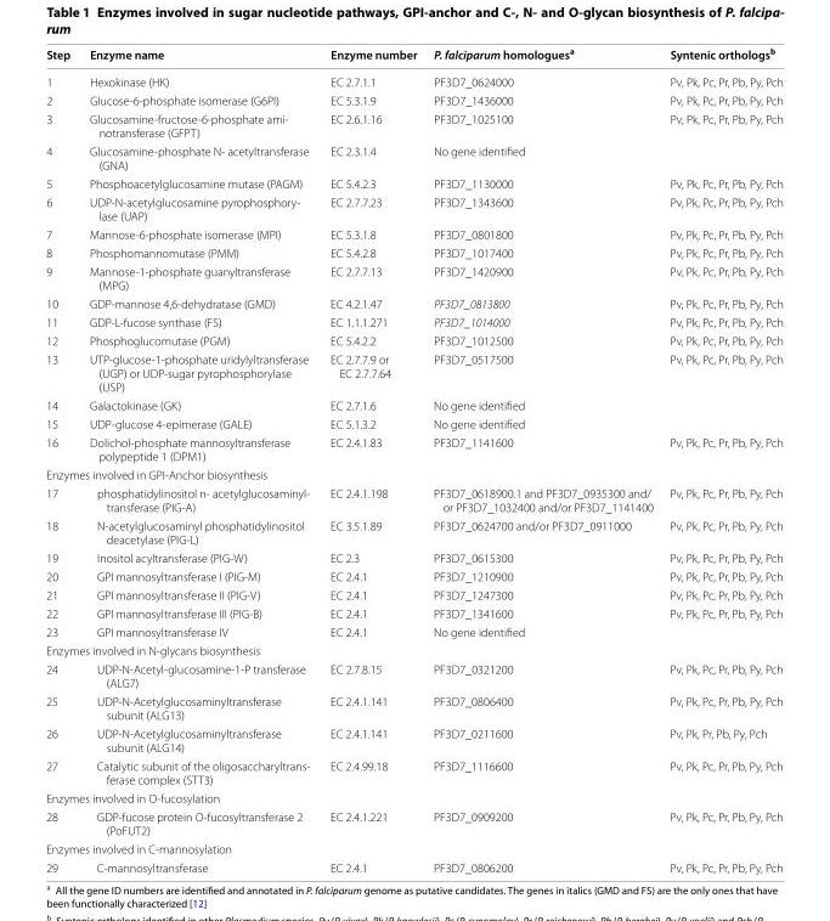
<table><thead><tr><td>Step</td><td>Enzyme name</td><td>Enzyme number</td><td>P. falciparum homologues<sup>a</sup></td><td>Syntenic orthologs<sup>b</sup></td></tr></thead><tbody><tr><td>1</td><td>Hexokinase (HK)</td><td>EC 2.7.1.1</td><td>PF3D7_0624000</td><td>Pv, Pk, Pc, Pr, Pb, Py, Pch</td></tr><tr><td>2</td><td>Glucose-6-phosphate isomerase (G6PI)</td><td>EC 5.3.1.9</td><td>PF3D7_1436000</td><td>Pv, Pk, Pc, Pr, Pb, Py, Pch</td></tr><tr><td>3</td><td>Glucosamine-fructose-6-phosphate ami- notransferase (GFPT)</td><td>EC 2.6.1.16</td><td>PF3D7_1025100</td><td>Pv, Pk, Pc, Pr, Pb, Py, Pch</td></tr><tr><td>4</td><td>Glucosamine-phosphate N- acetyltransferase (GNA)</td><td>EC 2.3.1.4</td><td>No gene identified</td><td></td></tr><tr><td>5</td><td>Phosphoacetylglucosamine mutase (PAGM)</td><td>EC 5.4.2.3</td><td>PF3D7_1130000</td><td>Pv, Pk, Pc, Pr, Pb, Py, Pch</td></tr><tr><td>6</td><td>UDP-N-acetylglucosamine pyrophosphory- lase (UAP)</td><td>EC 2.7.7.23</td><td>PF3D7_1343600</td><td>Pv, Pk, Pc, Pr, Pb, Py, Pch</td></tr><tr><td>7</td><td>Mannose-6-phosphate isomerase (MPI)</td><td>EC 5.3.1.8</td><td>PF3D7_0801800</td><td>Pv, Pk, Pc, Pr, Pb, Py, Pch</td></tr><tr><td>8</td><td>Phosphomannomutase (PMM)</td><td>EC 5.4.2.8</td><td>PF3D7_1017400</td><td>Pv, Pk, Pc, Pr, Pb, Py, Pch</td></tr><tr><td>9</td><td>Mannose-1-phosphate guanyltransferase (MPG)</td><td>EC 2.7.7.13</td><td>PF3D7_1420900</td><td>Pv, Pk, Pc, Pr, Pb, Py, Pch</td></tr><tr><td>10</td><td>GDP-mannose 4,6-dehydratase (GMD)</td><td>EC 4.2.1.47</td><td>PF3D7_0813800</td><td>Pv, Pk, Pc, Pr, Pb, Py, Pch</td></tr><tr><td>11</td><td>GDP-L-fucose synthase (FS)</td><td>EC 1.1.1.271</td><td>PF3D7_1014000</td><td>Pv, Pk, Pc, Pr, Pb, Py, Pch</td></tr><tr><td>12</td><td>Phosphoglucomutase (PGM)</td><td>EC 5.4.2.2</td><td>PF3D7_1012500</td><td>Pv, Pk, Pc, Pr, Pb, Py, Pch</td></tr><tr><td>13</td><td>UTP-glucose-1-phosphate uridylyltransferase (UGP) or UDP-sugar pyrophosphorylase (USP)</td><td>EC 2.7.7.9 or EC 2.7.7.64</td><td>PF3D7_0517500</td><td>Pv, Pk, Pc, Pr, Pb, Py, Pch</td></tr><tr><td>14</td><td>Galactokinase (GK)</td><td>EC 2.7.1.6</td><td>No gene identified</td><td></td></tr><tr><td>15</td><td>UDP-glucose 4-epimerase (GALE)</td><td>EC 5.1.3.2</td><td>No gene identified</td><td></td></tr><tr><td>16</td><td>Dolichol-phosphate mannosyltransferase polypeptide 1 (DPM1)</td><td>EC 2.4.1.83</td><td>PF3D7_1141600</td><td>Pv, Pk, Pc, Pr, Pb, Py, Pch</td></tr><tr><td colspan="5">Enzymes involved in GPI-Anchor biosynthesis</td></tr><tr><td>17</td><td>phosphatidylinositol n- acetylglucosaminyl- transferase (PIG-A)</td><td>EC 2.4.1.198</td><td>PF3D7_0618900.1 and PF3D7_0935300 and/ or PF3D7_1032400 and/or PF3D7_1141400</td><td>Pv, Pk, Pc, Pr, Pb, Py, Pch</td></tr><tr><td>18</td><td>N-acetylglucosaminyl phosphatidylinositol deacetylase (PIG-L)</td><td>EC 3.5.1.89</td><td>PF3D7_0624700 and/or PF3D7_0911000</td><td>Pv, Pk, Pc, Pr, Pb, Py, Pch</td></tr><tr><td>19</td><td>Inositol acyltransferase (PIG-W)</td><td>EC 2.3</td><td>PF3D7_0615300</td><td>Pv, Pk, Pc, Pr, Pb, Py, Pch</td></tr><tr><td>20</td><td>GPI mannosyltransferase I (PIG-M)</td><td>EC 2.4.1</td><td>PF3D7_1210900</td><td>Pv, Pk, Pc, Pr, Pb, Py, Pch</td></tr><tr><td>21</td><td>GPI mannosyltransferase II (PIG-V)</td><td>EC 2.4.1</td><td>PF3D7_1247300</td><td>Pv, Pk, Pc, Pr, Pb, Py, Pch</td></tr><tr><td>22</td><td>GPI mannosyltransferase III (PIG-B)</td><td>EC 2.4.1</td><td>PF3D7_1341600</td><td>Pv, Pk, Pc, Pr, Pb, Py, Pch</td></tr><tr><td>23</td><td>GPI mannosyltransferase IV</td><td>EC 2.4.1</td><td>No gene identified</td><td></td></tr><tr><td colspan="5">Enzymes involved in N-glycans biosynthesis</td></tr><tr><td>24</td><td>UDP-N-Acetyl-glucosamine-1-P transferase (ALG7)</td><td>EC 2.7.8.15</td><td>PF3D7_0321200</td><td>Pv, Pk, Pc, Pr, Pb, Py, Pch</td></tr><tr><td>25</td><td>UDP-N-Acetylglucosaminyltransferase subunit (ALG13)</td><td>EC 2.4.1.141</td><td>PF3D7_0806400</td><td>Pv, Pk, Pc, Pr, Pb, Py, Pch</td></tr><tr><td>26</td><td>UDP-N-Acetylglucosaminyltransferase subunit (ALG14)</td><td>EC 2.4.1.141</td><td>PF3D7_0211600</td><td>Pv, Pk, Pr, Pb, Py, Pch</td></tr><tr><td>27</td><td>Catalytic subunit of the oligosaccharyltrans- ferase complex (STT3)</td><td>EC 2.4.99.18</td><td>PF3D7_1116600</td><td>Pv, Pk, Pc, Pr, Pb, Py, Pch</td></tr><tr><td colspan="5">Enzymes involved in O-fucosylation</td></tr><tr><td>28</td><td>GDP-fucose protein O-fucosyltransferase 2 (PoFUT2)</td><td>EC 2.4.1.221</td><td>PF3D7_0909200</td><td>Pv, Pk, Pc, Pr, Pb, Py, Pch</td></tr><tr><td colspan="5">Enzymes involved in C-mannosylation</td></tr><tr><td>29</td><td>C-mannosyltransferase</td><td>EC 2.4.1</td><td>PF3D7_0806200</td><td>Pv, Pk, Pc, Pr, Pb, Py, Pch</td></tr></tbody></table>